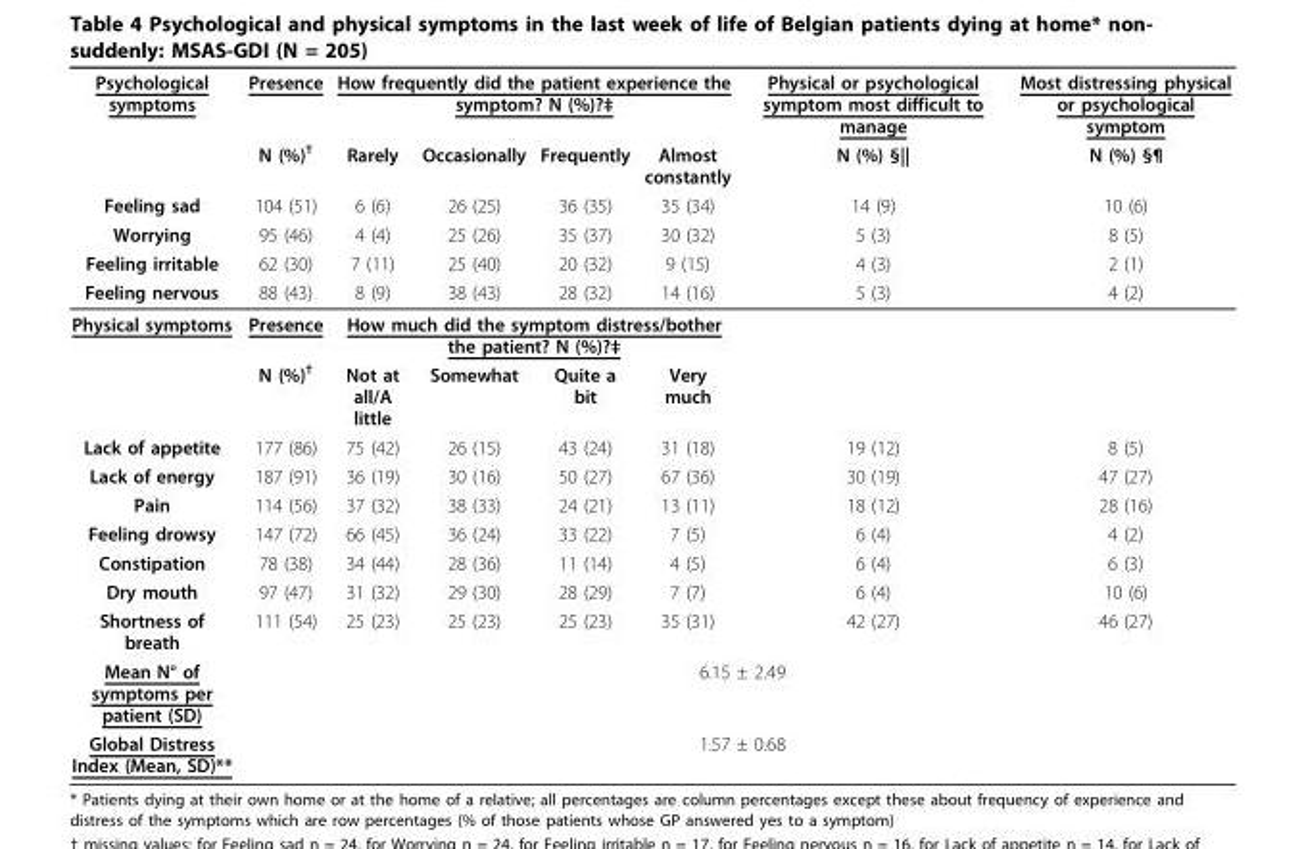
<table><thead><tr><td rowspan="6">Psychological symptoms Feeling sad Worrying Feeling irritable Feeling nervous</td><td rowspan="6">Presence N (%)† 104 (51) 95 (46) 62 (30) 88 (43)</td><td colspan="4">How frequently did the patient experience the symptom? N (%)?‡</td><td rowspan="6">Physical or psychological symptom most difficult to manage N (%) §|| 14 (9) 5 (3) 4 (3) 5 (3)</td><td rowspan="6">Most distressing physical or psychological symptom N (%) §¶ 10 (6) 8 (5) 2 (1) 4 (2)</td></tr><tr><td rowspan="5">Rarely 6 (6) 4 (4) 7 (11) 8 (9)</td><td rowspan="5">Occasionally 26 (25) 25 (26) 25 (40) 38 (43)</td><td rowspan="5">Frequently 36 (35) 35 (37) 20 (32) 28 (32)</td><td rowspan="5">Almost constantly 35 (34) 30 (32) 9 (15) 14 (16)</td></tr><tr></tr><tr></tr><tr></tr><tr></tr></thead><tbody><tr><td rowspan="2">Physical symptoms</td><td>Presence</td><td colspan="4">How much did the symptom distress/bother the patient? N (%)?‡</td><td></td><td></td></tr><tr><td>N (%)†</td><td>Not at all/A little</td><td>Somewhat</td><td>Quite a bit</td><td>Very much</td><td></td><td></td></tr><tr><td>Lack of appetite</td><td>177 (86)</td><td>75 (42)</td><td>26 (15)</td><td>43 (24)</td><td>31 (18)</td><td>19 (12)</td><td>8 (5)</td></tr><tr><td>Lack of energy</td><td>187 (91)</td><td>36 (19)</td><td>30 (16)</td><td>50 (27)</td><td>67 (36)</td><td>30 (19)</td><td>47 (27)</td></tr><tr><td>Pain</td><td>114 (56)</td><td>37 (32)</td><td>38 (33)</td><td>24 (21)</td><td>13 (11)</td><td>18 (12)</td><td>28 (16)</td></tr><tr><td>Feeling drowsy</td><td>147 (72)</td><td>66 (45)</td><td>36 (24)</td><td>33 (22)</td><td>7 (5)</td><td>6 (4)</td><td>4 (2)</td></tr><tr><td>Constipation</td><td>78 (38)</td><td>34 (44)</td><td>28 (36)</td><td>11 (14)</td><td>4 (5)</td><td>6 (4)</td><td>6 (3)</td></tr><tr><td>Dry mouth</td><td>97 (47)</td><td>31 (32)</td><td>29 (30)</td><td>28 (29)</td><td>7 (7)</td><td>6 (4)</td><td>10 (6)</td></tr><tr><td>Shortness of breath</td><td>111 (54)</td><td>25 (23)</td><td>25 (23)</td><td>25 (23)</td><td>35 (31)</td><td>42 (27)</td><td>46 (27)</td></tr><tr><td>Mean N° of symptoms per patient (SD)</td><td colspan="7">6.15 ± 2.49</td></tr><tr><td>Global Distress Index (Mean, SD)**</td><td colspan="7">1.57 ± 0.68</td></tr></tbody></table>